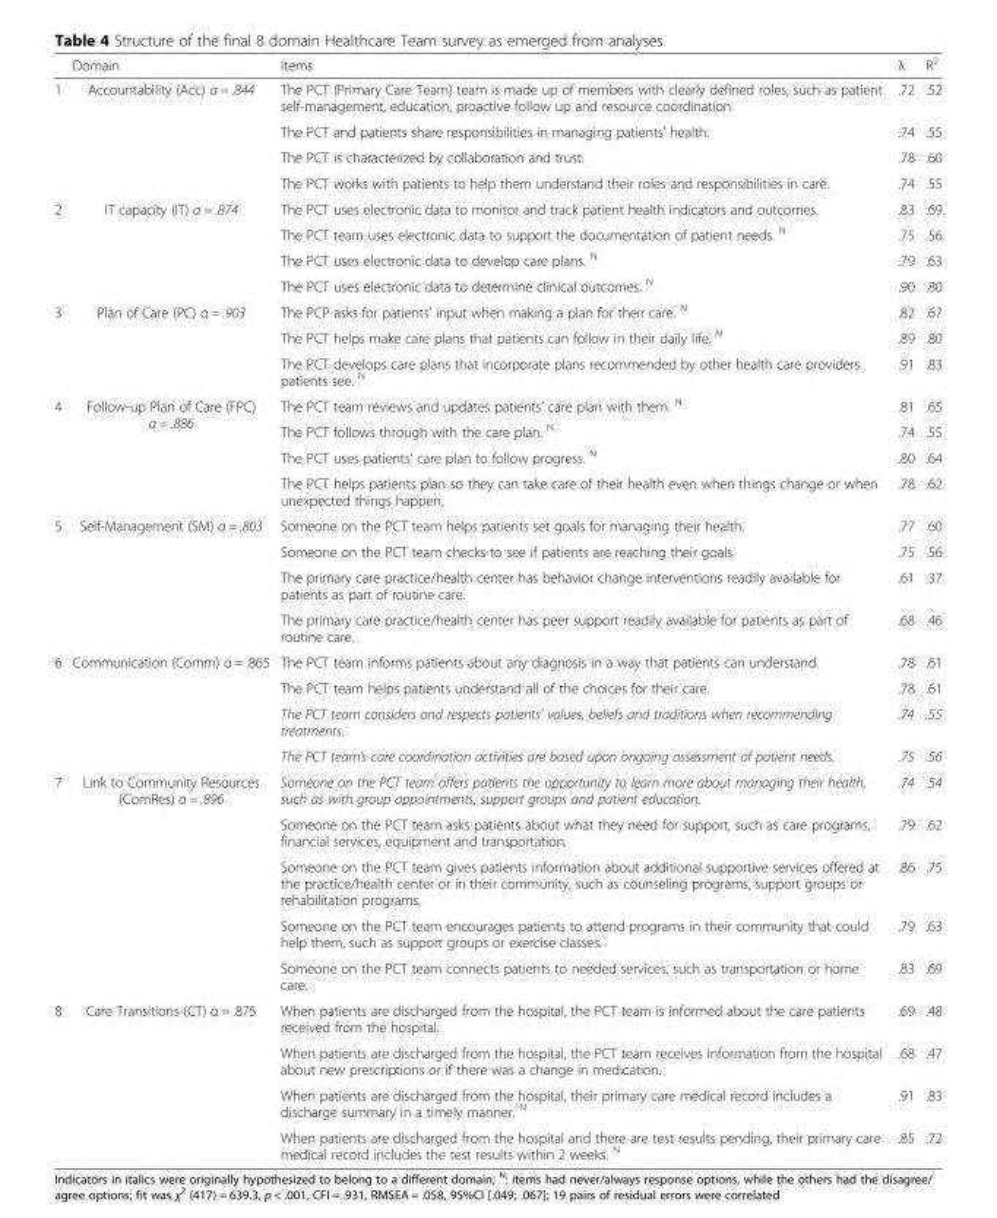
<table><thead><tr><td></td><td>Domain</td><td>Items</td><td>λ</td><td>R<sup>2</sup></td></tr></thead><tbody><tr><td rowspan="4">1</td><td rowspan="4">Accountability (Acc) α = .844</td><td>The PCT (Primary Care Team) team is made up of members with clearly defined roles, such as patient self-management, education, proactive follow up and resource coordination.</td><td>.72</td><td>.52</td></tr><tr><td>The PCT and patients share responsibilities in managing patients’ health.</td><td>.74</td><td>.55</td></tr><tr><td>The PCT is characterized by collaboration and trust.</td><td>.78</td><td>.60</td></tr><tr><td>The PCT works with patients to help them understand their roles and responsibilities in care.</td><td>.74</td><td>.55</td></tr><tr><td rowspan="4">2</td><td rowspan="4">IT capacity (IT) α = .874</td><td>The PCT uses electronic data to monitor and track patient health indicators and outcomes.</td><td>.83</td><td>.69</td></tr><tr><td>The PCT team uses electronic data to support the documentation of patient needs. <sup>N</sup></td><td>.75</td><td>.56</td></tr><tr><td>The PCT uses electronic data to develop care plans. <sup>N</sup></td><td>.79</td><td>.63</td></tr><tr><td>The PCT uses electronic data to determine clinical outcomes. <sup>N</sup></td><td>.90</td><td>.80</td></tr><tr><td rowspan="3">3</td><td rowspan="3">Plan of Care (PC) α = .903</td><td>The PCP asks for patients’ input when making a plan for their care. <sup>N</sup></td><td>.82</td><td>.67</td></tr><tr><td>The PCT helps make care plans that patients can follow in their daily life. <sup>N</sup></td><td>.89</td><td>.80</td></tr><tr><td>The PCT develops care plans that incorporate plans recommended by other health care providers patients see. <sup>N</sup></td><td>.91</td><td>.83</td></tr><tr><td rowspan="4">4</td><td rowspan="4">Follow-up Plan of Care (FPC) α = .886</td><td>The PCT team reviews and updates patients’ care plan with them. <sup>N</sup></td><td>.81</td><td>.65</td></tr><tr><td>The PCT follows through with the care plan. <sup>N</sup></td><td>.74</td><td>.55</td></tr><tr><td>The PCT uses patients’ care plan to follow progress. <sup>N</sup></td><td>.80</td><td>.64</td></tr><tr><td>The PCT helps patients plan so they can take care of their health even when things change or when unexpected things happen.</td><td>.78</td><td>.62</td></tr><tr><td rowspan="4">5</td><td rowspan="4">Self-Management (SM) α = .803</td><td>Someone on the PCT team helps patients set goals for managing their health.</td><td>.77</td><td>.60</td></tr><tr><td>Someone on the PCT team checks to see if patients are reaching their goals.</td><td>.75</td><td>.56</td></tr><tr><td>The primary care practice/health center has behavior change interventions readily available for patients as part of routine care.</td><td>.61</td><td>.37</td></tr><tr><td>The primary care practice/health center has peer support readily available for patients as part of routine care.</td><td>.68</td><td>.46</td></tr><tr><td rowspan="4">6</td><td rowspan="4">Communication (Comm) α = .865</td><td>The PCT team informs patients about any diagnosis in a way that patients can understand.</td><td>.78</td><td>.61</td></tr><tr><td>The PCT team helps patients understand all of the choices for their care.</td><td>.78</td><td>.61</td></tr><tr><td>The PCT team considers and respects patients’ values, beliefs and traditions when recommending treatments.</td><td>.74</td><td>.55</td></tr><tr><td>The PCT team’s care coordination activities are based upon ongoing assessment of patient needs.</td><td>.75</td><td>.56</td></tr><tr><td rowspan="5">7</td><td rowspan="5">Link to Community Resources (ComRes) α = .896</td><td>Someone on the PCT team offers patients the opportunity to learn more about managing their health, such as with group appointments, support groups and patient education.</td><td>.74</td><td>.54</td></tr><tr><td>Someone on the PCT team asks patients about what they need for support, such as care programs, financial services, equipment and transportation.</td><td>.79</td><td>.62</td></tr><tr><td>Someone on the PCT team gives patients information about additional supportive services offered at the practice/health center or in their community, such as counseling programs, support groups or rehabilitation programs.</td><td>.86</td><td>.75</td></tr><tr><td>Someone on the PCT team encourages patients to attend programs in their community that could help them, such as support groups or exercise classes.</td><td>.79</td><td>.63</td></tr><tr><td>Someone on the PCT team connects patients to needed services, such as transportation or home care.</td><td>.83</td><td>.69</td></tr><tr><td rowspan="4">8</td><td rowspan="4">Care Transitions (CT) α = .875</td><td>When patients are discharged from the hospital, the PCT team is informed about the care patients received from the hospital.</td><td>.69</td><td>.48</td></tr><tr><td>When patients are discharged from the hospital, the PCT team receives information from the hospital about new prescriptions or if there was a change in medication.</td><td>.68</td><td>.47</td></tr><tr><td>When patients are discharged from the hospital, their primary care medical record includes a discharge summary in a timely manner. <sup>N</sup></td><td>.91</td><td>.83</td></tr><tr><td>When patients are discharged from the hospital and there are test results pending, their primary care medical record includes the test results within 2 weeks. <sup>N</sup></td><td>.85</td><td>.72</td></tr></tbody></table>